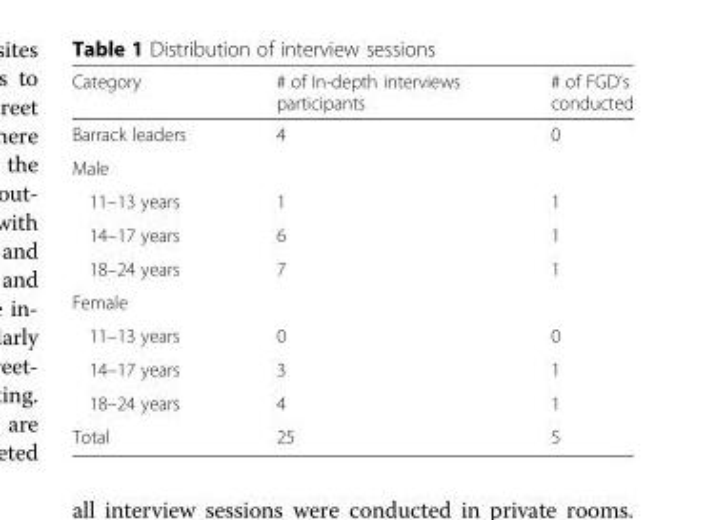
<table><thead><tr><td>Category</td><td># of In-depth interviews participants</td><td># of FGD’s conducted</td></tr></thead><tbody><tr><td>Barrack leaders</td><td>4</td><td>0</td></tr><tr><td colspan="3">Male</td></tr><tr><td>11–13 years</td><td>1</td><td>1</td></tr><tr><td>14–17 years</td><td>6</td><td>1</td></tr><tr><td>18–24 years</td><td>7</td><td>1</td></tr><tr><td colspan="3">Female</td></tr><tr><td>11–13 years</td><td>0</td><td>0</td></tr><tr><td>14–17 years</td><td>3</td><td>1</td></tr><tr><td>18–24 years</td><td>4</td><td>1</td></tr><tr><td>Total</td><td>25</td><td>5</td></tr></tbody></table>